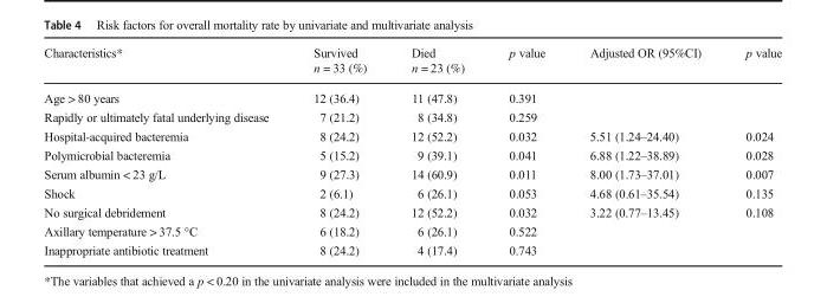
<table><thead><tr><td rowspan="2">Characteristics*</td><td rowspan="2">Survived n = 33 (%)</td><td rowspan="2">Died n = 23 (%)</td><td rowspan="2">p value</td><td rowspan="2">Adjusted OR (95%CI)</td><td rowspan="2">p value</td></tr><tr></tr></thead><tbody><tr><td>Age &gt; 80 years</td><td>12 (36.4)</td><td>11 (47.8)</td><td>0.391</td><td></td><td></td></tr><tr><td>Rapidly or ultimately fatal underlying disease</td><td>7 (21.2)</td><td>8 (34.8)</td><td>0.259</td><td></td><td></td></tr><tr><td>Hospital-acquired bacteremia</td><td>8 (24.2)</td><td>12 (52.2)</td><td>0.032</td><td>5.51 (1.24–24.40)</td><td>0.024</td></tr><tr><td>Polymicrobial bacteremia</td><td>5 (15.2)</td><td>9 (39.1)</td><td>0.041</td><td>6.88 (1.22–38.89)</td><td>0.028</td></tr><tr><td>Serum albumin &lt; 23 g/L</td><td>9 (27.3)</td><td>14 (60.9)</td><td>0.011</td><td>8.00 (1.73–37.01)</td><td>0.007</td></tr><tr><td>Shock</td><td>2 (6.1)</td><td>6 (26.1)</td><td>0.053</td><td>4.68 (0.61–35.54)</td><td>0.135</td></tr><tr><td>No surgical debridement</td><td>8 (24.2)</td><td>12 (52.2)</td><td>0.032</td><td>3.22 (0.77–13.45)</td><td>0.108</td></tr><tr><td>Axillary temperature &gt; 37.5 °C</td><td>6 (18.2)</td><td>6 (26.1)</td><td>0.522</td><td></td><td></td></tr><tr><td>Inappropriate antibiotic treatment</td><td>8 (24.2)</td><td>4 (17.4)</td><td>0.743</td><td></td><td></td></tr></tbody></table>